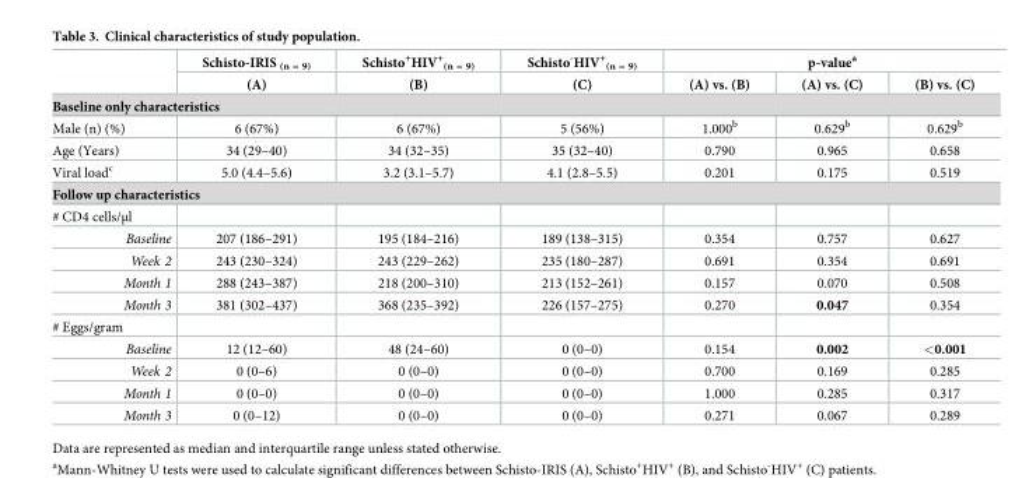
<table><thead><tr><td rowspan="2"></td><td rowspan="2">Schisto-IRIS <sub>(n = 9)</sub> (A)</td><td rowspan="2">Schisto<sup>+</sup>HIV<sup>+</sup> <sub>(n = 9)</sub> (B)</td><td rowspan="2">Schisto<sup>-</sup>HIV<sup>+</sup> <sub>(n = 9)</sub> (C)</td><td colspan="3">p-value<sup>a</sup></td></tr><tr><td>(A) vs. (B)</td><td>(A) vs. (C)</td><td>(B) vs. (C)</td></tr></thead><tbody><tr><td colspan="7">Baseline only characteristics</td></tr><tr><td>Male (n) (%)</td><td>6 (67%)</td><td>6 (67%)</td><td>5 (56%)</td><td>1.000<sup>b</sup></td><td>0.629<sup>b</sup></td><td>0.629<sup>b</sup></td></tr><tr><td>Age (Years)</td><td>34 (29–40)</td><td>34 (32–35)</td><td>35 (32–40)</td><td>0.790</td><td>0.965</td><td>0.658</td></tr><tr><td>Viral load<sup>c</sup></td><td>5.0 (4.4–5.6)</td><td>3.2 (3.1–5.7)</td><td>4.1 (2.8–5.5)</td><td>0.201</td><td>0.175</td><td>0.519</td></tr><tr><td colspan="7">Follow up characteristics</td></tr><tr><td colspan="7"># CD4 cells/μl</td></tr><tr><td>Baseline</td><td>207 (186–291)</td><td>195 (184–216)</td><td>189 (138–315)</td><td>0.354</td><td>0.757</td><td>0.627</td></tr><tr><td>Week 2</td><td>243 (230–324)</td><td>243 (229–262)</td><td>235 (180–287)</td><td>0.691</td><td>0.354</td><td>0.691</td></tr><tr><td>Month 1</td><td>288 (243–387)</td><td>218 (200–310)</td><td>213 (152–261)</td><td>0.157</td><td>0.070</td><td>0.508</td></tr><tr><td>Month 3</td><td>381 (302–437)</td><td>368 (235–392)</td><td>226 (157–275)</td><td>0.270</td><td>0.047</td><td>0.354</td></tr><tr><td colspan="7"># Eggs/gram</td></tr><tr><td>Baseline</td><td>12 (12–60)</td><td>48 (24–60)</td><td>0 (0–0)</td><td>0.154</td><td>0.002</td><td>&lt;0.001</td></tr><tr><td>Week 2</td><td>0 (0–6)</td><td>0 (0–0)</td><td>0 (0–0)</td><td>0.700</td><td>0.169</td><td>0.285</td></tr><tr><td>Month 1</td><td>0 (0–0)</td><td>0 (0–0)</td><td>0 (0–0)</td><td>1.000</td><td>0.285</td><td>0.317</td></tr><tr><td>Month 3</td><td>0 (0–12)</td><td>0 (0–0)</td><td>0 (0–0)</td><td>0.271</td><td>0.067</td><td>0.289</td></tr></tbody></table>